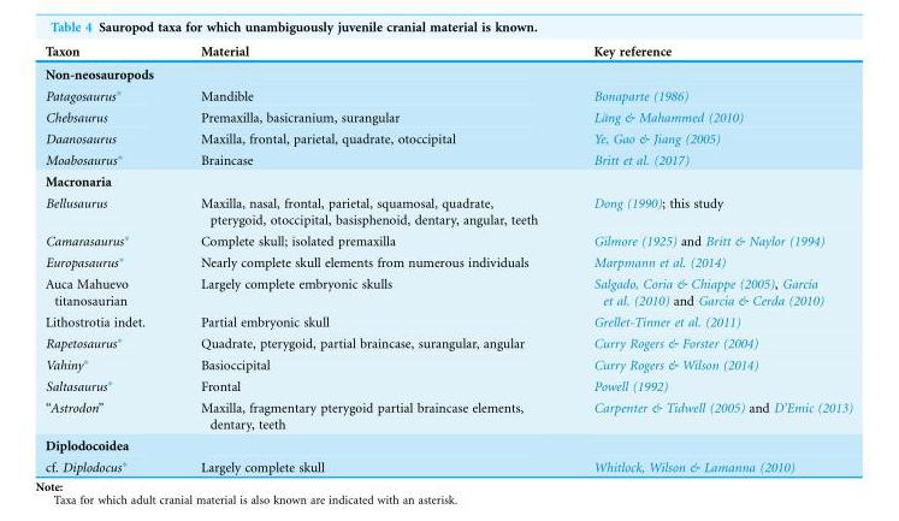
<table><thead><tr><td>Taxon</td><td>Material</td><td>Key reference</td></tr></thead><tbody><tr><td colspan="3">Non-neosauropods</td></tr><tr><td>Patagosaurus*</td><td>Mandible</td><td>Bonaparte (1986)</td></tr><tr><td>Chebsaurus</td><td>Premaxilla, basicranium, surangular</td><td>La¨ng &amp; Mahammed (2010)</td></tr><tr><td>Daanosaurus</td><td>Maxilla, frontal, parietal, quadrate, otoccipital</td><td>Ye, Gao &amp; Jiang (2005)</td></tr><tr><td>Moabosaurus*</td><td>Braincase</td><td>Britt et al. (2017)</td></tr><tr><td colspan="3">Macronaria</td></tr><tr><td>Bellusaurus</td><td>Maxilla, nasal, frontal, parietal, squamosal, quadrate, pterygoid, otoccipital, basisphenoid, dentary, angular, teeth</td><td>Dong (1990); this study</td></tr><tr><td>Camarasaurus*</td><td>Complete skull; isolated premaxilla</td><td>Gilmore (1925) and Britt &amp; Naylor (1994)</td></tr><tr><td>Europasaurus*</td><td>Nearly complete skull elements from numerous individuals</td><td>Marpmann et al. (2014)</td></tr><tr><td>Auca Mahuevo titanosaurian</td><td>Largely complete embryonic skulls</td><td>Salgado, Coria &amp; Chiappe (2005), Garcı´a et al. (2010) and Garcı´a &amp; Cerda (2010)</td></tr><tr><td>Lithostrotia indet.</td><td>Partial embryonic skull</td><td>Grellet-Tinner et al. (2011)</td></tr><tr><td>Rapetosaurus*</td><td>Quadrate, pterygoid, partial braincase, surangular, angular</td><td>Curry Rogers &amp; Forster (2004)</td></tr><tr><td>Vahiny*</td><td>Basioccipital</td><td>Curry Rogers &amp; Wilson (2014)</td></tr><tr><td>Saltasaurus*</td><td>Frontal</td><td>Powell (1992)</td></tr><tr><td>“Astrodon”</td><td>Maxilla, fragmentary pterygoid partial braincase elements, dentary, teeth</td><td>Carpenter &amp; Tidwell (2005) and D’Emic (2013)</td></tr><tr><td colspan="3">Diplodocoidea</td></tr><tr><td>cf. Diplodocus*</td><td>Largely complete skull</td><td>Whitlock, Wilson &amp; Lamanna (2010)</td></tr></tbody></table>